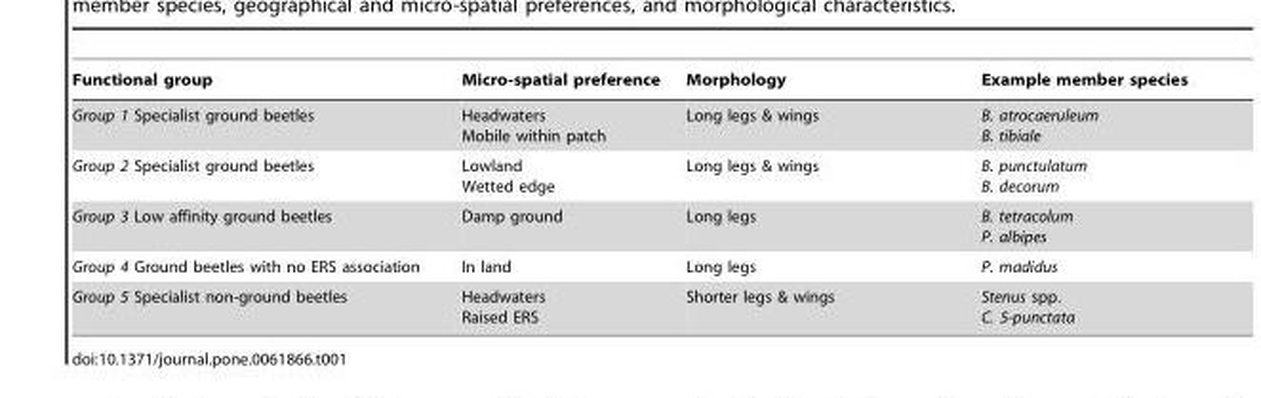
<table><thead><tr><td>Functional group</td><td>Micro-spatial preference</td><td>Morphology</td><td>Example member species</td></tr></thead><tbody><tr><td>Group 1 Specialist ground beetles</td><td>Headwaters Mobile within patch</td><td>Long legs &amp; wings</td><td>B. atrocaeruleum B. tibiale</td></tr><tr><td>Group 2 Specialist ground beetles</td><td>Lowland Wetted edge</td><td>Long legs &amp; wings</td><td>B. punctulatum B. decorum</td></tr><tr><td>Group 3 Low affinity ground beetles</td><td>Damp ground</td><td>Long legs</td><td>B. tetracolum P. albipes</td></tr><tr><td>Group 4 Ground beetles with no ERS association</td><td>In land</td><td>Long legs</td><td>P. madidus</td></tr><tr><td>Group 5 Specialist non-ground beetles</td><td>Headwaters Raised ERS</td><td>Shorter legs &amp; wings</td><td>Stenus spp. C. 5-punctata</td></tr></tbody></table>